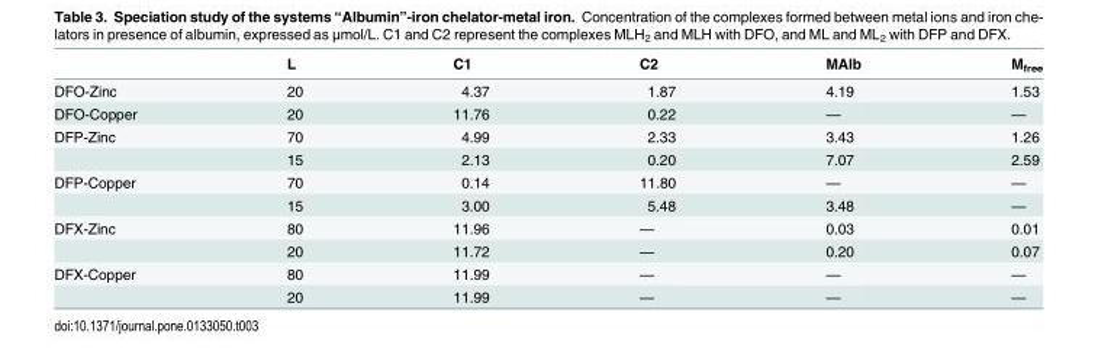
<table><thead><tr><td></td><td>L</td><td>C1</td><td>C2</td><td>MAlb</td><td>M<sub>free</sub></td></tr></thead><tbody><tr><td>DFO-Zinc</td><td>20</td><td>4.37</td><td>1.87</td><td>4.19</td><td>1.53</td></tr><tr><td>DFO-Copper</td><td>20</td><td>11.76</td><td>0.22</td><td>—</td><td>—</td></tr><tr><td rowspan="2">DFP-Zinc</td><td>70</td><td>4.99</td><td>2.33</td><td>3.43</td><td>1.26</td></tr><tr><td>15</td><td>2.13</td><td>0.20</td><td>7.07</td><td>2.59</td></tr><tr><td rowspan="2">DFP-Copper</td><td>70</td><td>0.14</td><td>11.80</td><td>—</td><td>—</td></tr><tr><td>15</td><td>3.00</td><td>5.48</td><td>3.48</td><td>—</td></tr><tr><td rowspan="2">DFX-Zinc</td><td>80</td><td>11.96</td><td>—</td><td>0.03</td><td>0.01</td></tr><tr><td>20</td><td>11.72</td><td>—</td><td>0.20</td><td>0.07</td></tr><tr><td rowspan="2">DFX-Copper</td><td>80</td><td>11.99</td><td>—</td><td>—</td><td>—</td></tr><tr><td>20</td><td>11.99</td><td>—</td><td>—</td><td>—</td></tr></tbody></table>